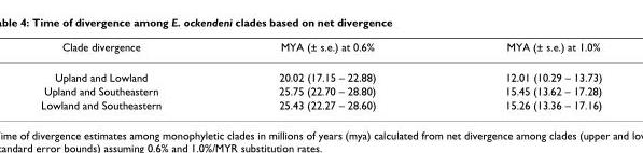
<table><thead><tr><td>Clade divergence</td><td>MYA (± s.e.) at 0.6%</td><td>MYA (± s.e.) at 1.0%</td></tr></thead><tbody><tr><td>Upland and Lowland</td><td>20.02 (17.15 – 22.88)</td><td>12.01 (10.29 – 13.73)</td></tr><tr><td>Upland and Southeastern</td><td>25.75 (22.70 – 28.80)</td><td>15.45 (13.62 – 17.28)</td></tr><tr><td>Lowland and Southeastern</td><td>25.43 (22.27 – 28.60)</td><td>15.26 (13.36 – 17.16)</td></tr></tbody></table>